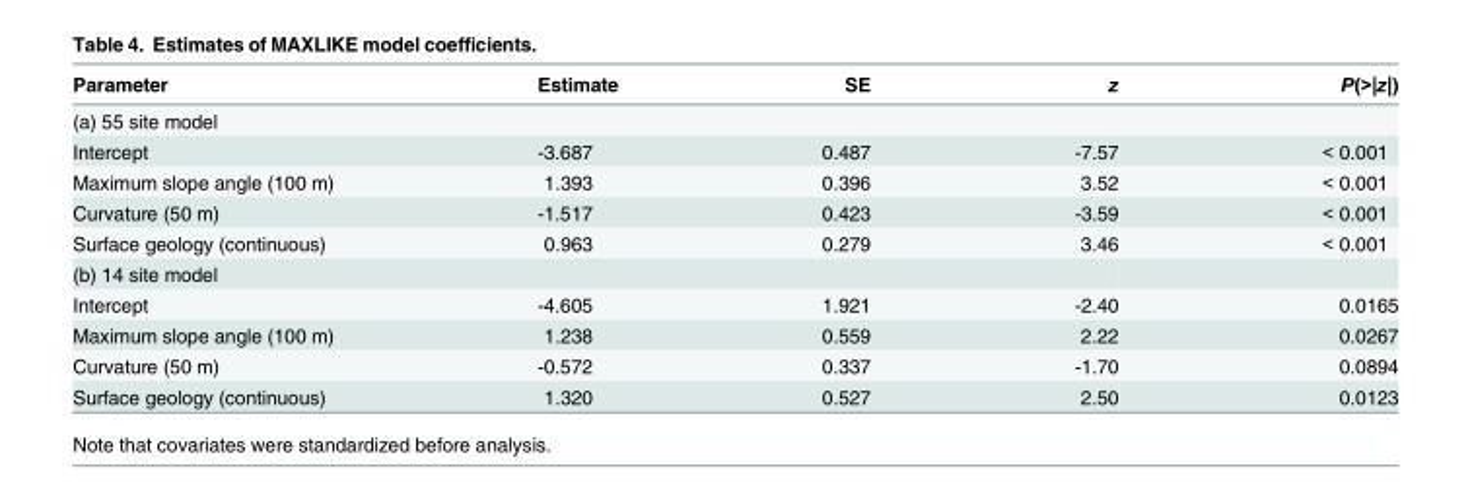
<table><thead><tr><td>Parameter</td><td>Estimate</td><td>SE</td><td>z</td><td>P(&gt;|z|)</td></tr></thead><tbody><tr><td colspan="5">(a) 55 site model</td></tr><tr><td>Intercept</td><td>-3.687</td><td>0.487</td><td>-7.57</td><td>&lt; 0.001</td></tr><tr><td>Maximum slope angle (100 m)</td><td>1.393</td><td>0.396</td><td>3.52</td><td>&lt; 0.001</td></tr><tr><td>Curvature (50 m)</td><td>-1.517</td><td>0.423</td><td>-3.59</td><td>&lt; 0.001</td></tr><tr><td>Surface geology (continuous)</td><td>0.963</td><td>0.279</td><td>3.46</td><td>&lt; 0.001</td></tr><tr><td colspan="5">(b) 14 site model</td></tr><tr><td>Intercept</td><td>-4.605</td><td>1.921</td><td>-2.40</td><td>0.0165</td></tr><tr><td>Maximum slope angle (100 m)</td><td>1.238</td><td>0.559</td><td>2.22</td><td>0.0267</td></tr><tr><td>Curvature (50 m)</td><td>-0.572</td><td>0.337</td><td>-1.70</td><td>0.0894</td></tr><tr><td>Surface geology (continuous)</td><td>1.320</td><td>0.527</td><td>2.50</td><td>0.0123</td></tr></tbody></table>